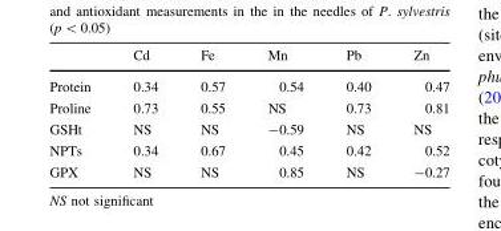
<table><thead><tr><td></td><td>Cd</td><td>Fe</td><td>Mn</td><td>Pb</td><td>Zn</td></tr></thead><tbody><tr><td>Protein</td><td>0.34</td><td>0.57</td><td>0.54</td><td>0.40</td><td>0.47</td></tr><tr><td>Proline</td><td>0.73</td><td>0.55</td><td>NS</td><td>0.73</td><td>0.81</td></tr><tr><td>GSHt</td><td>NS</td><td>NS</td><td>-0.59</td><td>NS</td><td>NS</td></tr><tr><td>NPTs</td><td>0.34</td><td>0.67</td><td>0.45</td><td>0.42</td><td>0.52</td></tr><tr><td>GPX</td><td>NS</td><td>NS</td><td>0.85</td><td>NS</td><td>-0.27</td></tr></tbody></table>